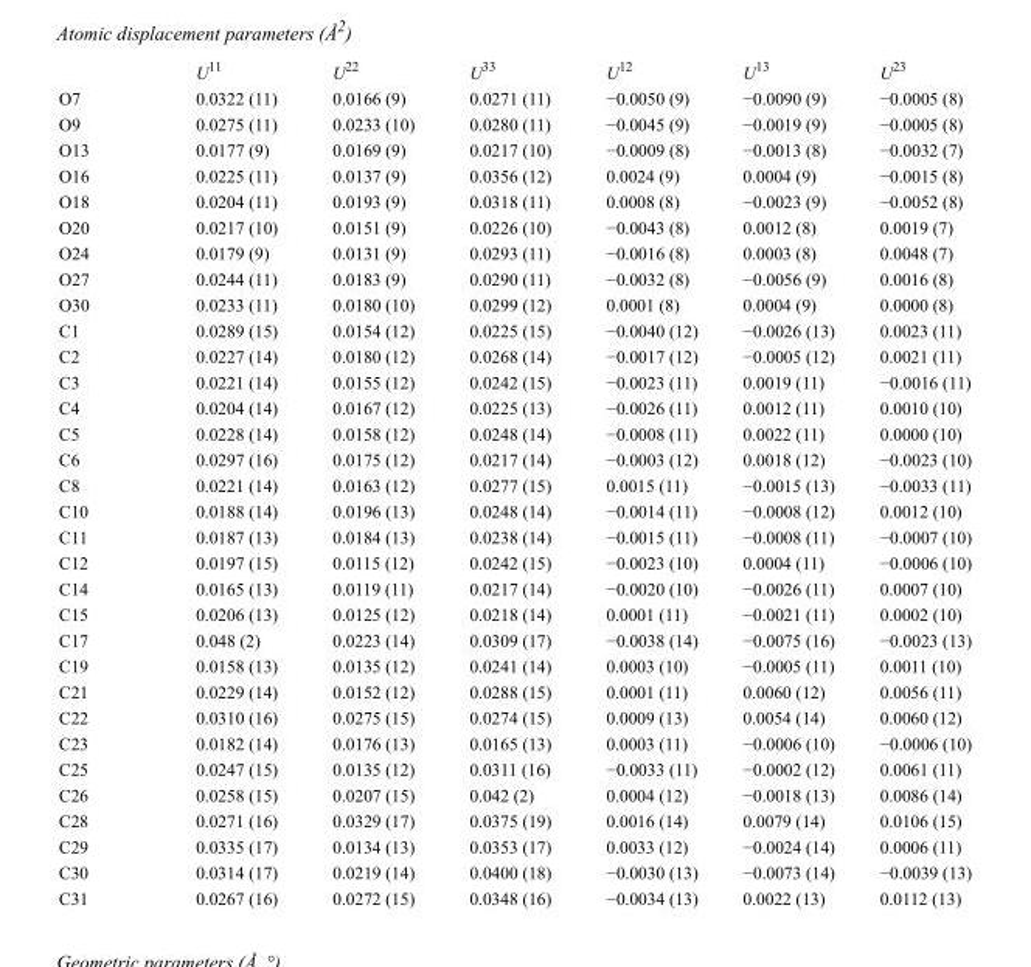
<table><thead><tr><td></td><td>U<sup>11</sup></td><td>U<sup>22</sup></td><td>U<sup>33</sup></td><td>U<sup>12</sup></td><td>U<sup>13</sup></td><td>U<sup>23</sup></td></tr></thead><tbody><tr><td>O7</td><td>0.0322 (11)</td><td>0.0166 (9)</td><td>0.0271 (11)</td><td>−0.0050 (9)</td><td>−0.0090 (9)</td><td>−0.0005 (8)</td></tr><tr><td>O9</td><td>0.0275 (11)</td><td>0.0233 (10)</td><td>0.0280 (11)</td><td>−0.0045 (9)</td><td>−0.0019 (9)</td><td>−0.0005 (8)</td></tr><tr><td>O13</td><td>0.0177 (9)</td><td>0.0169 (9)</td><td>0.0217 (10)</td><td>−0.0009 (8)</td><td>−0.0013 (8)</td><td>−0.0032 (7)</td></tr><tr><td>O16</td><td>0.0225 (11)</td><td>0.0137 (9)</td><td>0.0356 (12)</td><td>0.0024 (9)</td><td>0.0004 (9)</td><td>−0.0015 (8)</td></tr><tr><td>O18</td><td>0.0204 (11)</td><td>0.0193 (9)</td><td>0.0318 (11)</td><td>0.0008 (8)</td><td>−0.0023 (9)</td><td>−0.0052 (8)</td></tr><tr><td>O20</td><td>0.0217 (10)</td><td>0.0151 (9)</td><td>0.0226 (10)</td><td>−0.0043 (8)</td><td>0.0012 (8)</td><td>0.0019 (7)</td></tr><tr><td>O24</td><td>0.0179 (9)</td><td>0.0131 (9)</td><td>0.0293 (11)</td><td>−0.0016 (8)</td><td>0.0003 (8)</td><td>0.0048 (7)</td></tr><tr><td>O27</td><td>0.0244 (11)</td><td>0.0183 (9)</td><td>0.0290 (11)</td><td>−0.0032 (8)</td><td>−0.0056 (9)</td><td>0.0016 (8)</td></tr><tr><td>O30</td><td>0.0233 (11)</td><td>0.0180 (10)</td><td>0.0299 (12)</td><td>0.0001 (8)</td><td>0.0004 (9)</td><td>0.0000 (8)</td></tr><tr><td>C1</td><td>0.0289 (15)</td><td>0.0154 (12)</td><td>0.0225 (15)</td><td>−0.0040 (12)</td><td>−0.0026 (13)</td><td>0.0023 (11)</td></tr><tr><td>C2</td><td>0.0227 (14)</td><td>0.0180 (12)</td><td>0.0268 (14)</td><td>−0.0017 (12)</td><td>−0.0005 (12)</td><td>0.0021 (11)</td></tr><tr><td>C3</td><td>0.0221 (14)</td><td>0.0155 (12)</td><td>0.0242 (15)</td><td>−0.0023 (11)</td><td>0.0019 (11)</td><td>−0.0016 (11)</td></tr><tr><td>C4</td><td>0.0204 (14)</td><td>0.0167 (12)</td><td>0.0225 (13)</td><td>−0.0026 (11)</td><td>0.0012 (11)</td><td>0.0010 (10)</td></tr><tr><td>C5</td><td>0.0228 (14)</td><td>0.0158 (12)</td><td>0.0248 (14)</td><td>−0.0008 (11)</td><td>0.0022 (11)</td><td>0.0000 (10)</td></tr><tr><td>C6</td><td>0.0297 (16)</td><td>0.0175 (12)</td><td>0.0217 (14)</td><td>−0.0003 (12)</td><td>0.0018 (12)</td><td>−0.0023 (10)</td></tr><tr><td>C8</td><td>0.0221 (14)</td><td>0.0163 (12)</td><td>0.0277 (15)</td><td>0.0015 (11)</td><td>−0.0015 (13)</td><td>−0.0033 (11)</td></tr><tr><td>C10</td><td>0.0188 (14)</td><td>0.0196 (13)</td><td>0.0248 (14)</td><td>−0.0014 (11)</td><td>−0.0008 (12)</td><td>0.0012 (10)</td></tr><tr><td>C11</td><td>0.0187 (13)</td><td>0.0184 (13)</td><td>0.0238 (14)</td><td>−0.0015 (11)</td><td>−0.0008 (11)</td><td>−0.0007 (10)</td></tr><tr><td>C12</td><td>0.0197 (15)</td><td>0.0115 (12)</td><td>0.0242 (15)</td><td>−0.0023 (10)</td><td>0.0004 (11)</td><td>−0.0006 (10)</td></tr><tr><td>C14</td><td>0.0165 (13)</td><td>0.0119 (11)</td><td>0.0217 (14)</td><td>−0.0020 (10)</td><td>−0.0026 (11)</td><td>0.0007 (10)</td></tr><tr><td>C15</td><td>0.0206 (13)</td><td>0.0125 (12)</td><td>0.0218 (14)</td><td>0.0001 (11)</td><td>−0.0021 (11)</td><td>0.0002 (10)</td></tr><tr><td>C17</td><td>0.048 (2)</td><td>0.0223 (14)</td><td>0.0309 (17)</td><td>−0.0038 (14)</td><td>−0.0075 (16)</td><td>−0.0023 (13)</td></tr><tr><td>C19</td><td>0.0158 (13)</td><td>0.0135 (12)</td><td>0.0241 (14)</td><td>0.0003 (10)</td><td>−0.0005 (11)</td><td>0.0011 (10)</td></tr><tr><td>C21</td><td>0.0229 (14)</td><td>0.0152 (12)</td><td>0.0288 (15)</td><td>0.0001 (11)</td><td>0.0060 (12)</td><td>0.0056 (11)</td></tr><tr><td>C22</td><td>0.0310 (16)</td><td>0.0275 (15)</td><td>0.0274 (15)</td><td>0.0009 (13)</td><td>0.0054 (14)</td><td>0.0060 (12)</td></tr><tr><td>C23</td><td>0.0182 (14)</td><td>0.0176 (13)</td><td>0.0165 (13)</td><td>0.0003 (11)</td><td>−0.0006 (10)</td><td>−0.0006 (10)</td></tr><tr><td>C25</td><td>0.0247 (15)</td><td>0.0135 (12)</td><td>0.0311 (16)</td><td>−0.0033 (11)</td><td>−0.0002 (12)</td><td>0.0061 (11)</td></tr><tr><td>C26</td><td>0.0258 (15)</td><td>0.0207 (15)</td><td>0.042 (2)</td><td>0.0004 (12)</td><td>−0.0018 (13)</td><td>0.0086 (14)</td></tr><tr><td>C28</td><td>0.0271 (16)</td><td>0.0329 (17)</td><td>0.0375 (19)</td><td>0.0016 (14)</td><td>0.0079 (14)</td><td>0.0106 (15)</td></tr><tr><td>C29</td><td>0.0335 (17)</td><td>0.0134 (13)</td><td>0.0353 (17)</td><td>0.0033 (12)</td><td>−0.0024 (14)</td><td>0.0006 (11)</td></tr><tr><td>C30</td><td>0.0314 (17)</td><td>0.0219 (14)</td><td>0.0400 (18)</td><td>−0.0030 (13)</td><td>−0.0073 (14)</td><td>−0.0039 (13)</td></tr><tr><td>C31</td><td>0.0267 (16)</td><td>0.0272 (15)</td><td>0.0348 (16)</td><td>−0.0034 (13)</td><td>0.0022 (13)</td><td>0.0112 (13)</td></tr></tbody></table>